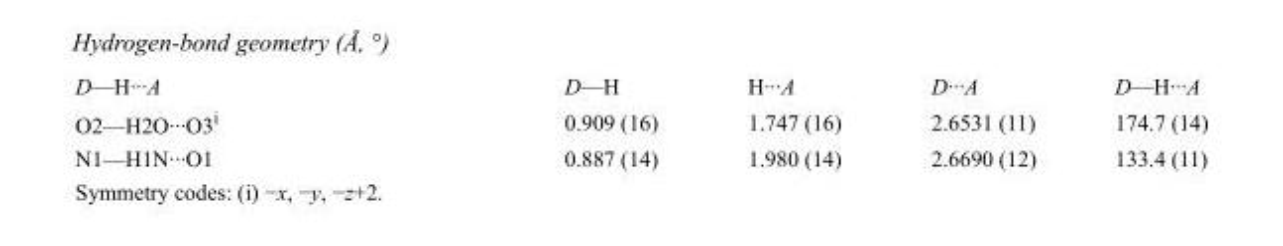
<table><tbody><tr><td>D—H···A</td><td>D—H</td><td>H···A</td><td>D···A</td><td>D—H···A</td></tr><tr><td>O2—H2O···O3<sup>i</sup></td><td>0.909 (16)</td><td>1.747 (16)</td><td>2.6531 (11)</td><td>174.7 (14)</td></tr><tr><td>N1—H1N···O1</td><td>0.887 (14)</td><td>1.980 (14)</td><td>2.6690 (12)</td><td>133.4 (11)</td></tr></tbody></table>